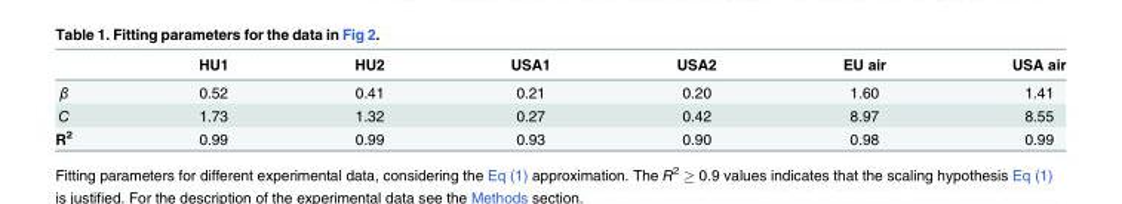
<table><thead><tr><td></td><td>HU1</td><td>HU2</td><td>USA1</td><td>USA2</td><td>EU air</td><td>USA air</td></tr></thead><tbody><tr><td>β</td><td>0.52</td><td>0.41</td><td>0.21</td><td>0.20</td><td>1.60</td><td>1.41</td></tr><tr><td>C</td><td>1.73</td><td>1.32</td><td>0.27</td><td>0.42</td><td>8.97</td><td>8.55</td></tr><tr><td>R<sup>2</sup></td><td>0.99</td><td>0.99</td><td>0.93</td><td>0.90</td><td>0.98</td><td>0.99</td></tr></tbody></table>